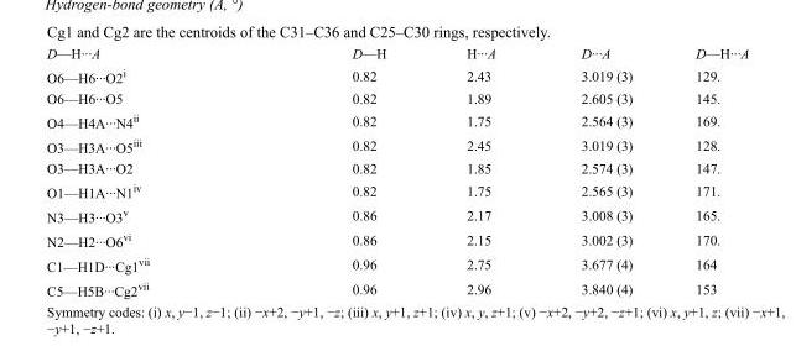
<table><tbody><tr><td>D—H···A</td><td>D—H</td><td>H···A</td><td>D···A</td><td>D—H···A</td></tr><tr><td>O6—H6···O2<sup>i</sup></td><td>0.82</td><td>2.43</td><td>3.019 (3)</td><td>129.</td></tr><tr><td>O6—H6···O5</td><td>0.82</td><td>1.89</td><td>2.605 (3)</td><td>145.</td></tr><tr><td>O4—H4A···N4<sup>ii</sup></td><td>0.82</td><td>1.75</td><td>2.564 (3)</td><td>169.</td></tr><tr><td>O3—H3A···O5<sup>iii</sup></td><td>0.82</td><td>2.45</td><td>3.019 (3)</td><td>128.</td></tr><tr><td>O3—H3A···O2</td><td>0.82</td><td>1.85</td><td>2.574 (3)</td><td>147.</td></tr><tr><td>O1—H1A···N1<sup>iv</sup></td><td>0.82</td><td>1.75</td><td>2.565 (3)</td><td>171.</td></tr><tr><td>N3—H3···O3<sup>v</sup></td><td>0.86</td><td>2.17</td><td>3.008 (3)</td><td>165.</td></tr><tr><td>N2—H2···O6<sup>vi</sup></td><td>0.86</td><td>2.15</td><td>3.002 (3)</td><td>170.</td></tr><tr><td>C1—H1D···Cg1<sup>vii</sup></td><td>0.96</td><td>2.75</td><td>3.677 (4)</td><td>164</td></tr><tr><td>C5—H5B···Cg2<sup>vii</sup></td><td>0.96</td><td>2.96</td><td>3.840 (4)</td><td>153</td></tr></tbody></table>